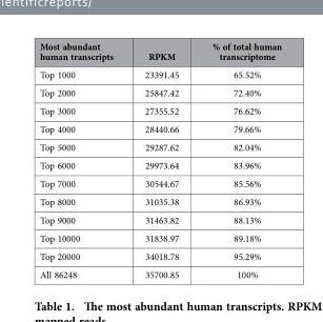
<table><thead><tr><td>Most abundant human transcripts</td><td>RPKM</td><td>% of total human transcriptome</td></tr></thead><tbody><tr><td>Top 1000</td><td>23391.45</td><td>65.52%</td></tr><tr><td>Top 2000</td><td>25847.42</td><td>72.40%</td></tr><tr><td>Top 3000</td><td>27355.52</td><td>76.62%</td></tr><tr><td>Top 4000</td><td>28440.66</td><td>79.66%</td></tr><tr><td>Top 5000</td><td>29287.62</td><td>82.04%</td></tr><tr><td>Top 6000</td><td>29973.64</td><td>83.96%</td></tr><tr><td>Top 7000</td><td>30544.67</td><td>85.56%</td></tr><tr><td>Top 8000</td><td>31035.38</td><td>86.93%</td></tr><tr><td>Top 9000</td><td>31463.82</td><td>88.13%</td></tr><tr><td>Top 10000</td><td>31838.97</td><td>89.18%</td></tr><tr><td>Top 20000</td><td>34018.78</td><td>95.29%</td></tr><tr><td>All 86248</td><td>35700.85</td><td>100%</td></tr></tbody></table>